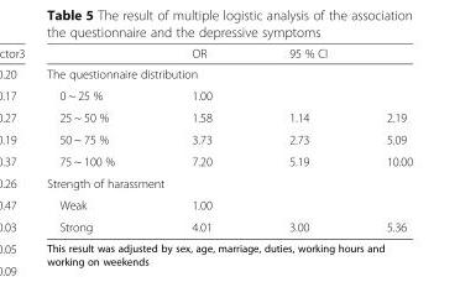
<table><thead><tr><td></td><td>OR</td><td colspan="2">95 % CI</td></tr><tr><td colspan="4">The questionnaire distribution</td></tr><tr><td>0 ~ 25 %</td><td>1.00</td><td></td><td></td></tr></thead><tbody><tr><td>25 ~ 50 %</td><td>1.58</td><td>1.14</td><td>2.19</td></tr><tr><td>50 ~ 75 %</td><td>3.73</td><td>2.73</td><td>5.09</td></tr><tr><td>75 ~ 100 %</td><td>7.20</td><td>5.19</td><td>10.00</td></tr><tr><td colspan="4">Strength of harassment</td></tr><tr><td>Weak</td><td>1.00</td><td></td><td></td></tr><tr><td>Strong</td><td>4.01</td><td>3.00</td><td>5.36</td></tr></tbody></table>